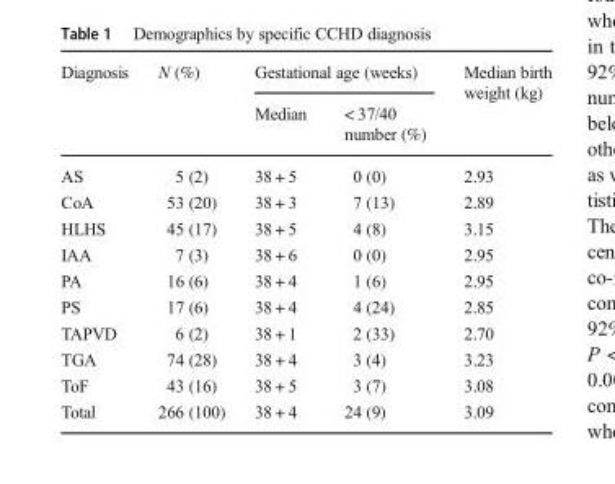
<table><thead><tr><td rowspan="2">Diagnosis</td><td rowspan="2">N (%)</td><td colspan="2">Gestational age (weeks)</td><td rowspan="2">Median birth weight (kg)</td></tr><tr><td>Median</td><td>&lt; 37/40 number (%)</td></tr></thead><tbody><tr><td>AS</td><td>5 (2)</td><td>38 + 5</td><td>0 (0)</td><td>2.93</td></tr><tr><td>CoA</td><td>53 (20)</td><td>38 + 3</td><td>7 (13)</td><td>2.89</td></tr><tr><td>HLHS</td><td>45 (17)</td><td>38 + 5</td><td>4 (8)</td><td>3.15</td></tr><tr><td>IAA</td><td>7 (3)</td><td>38 + 6</td><td>0 (0)</td><td>2.95</td></tr><tr><td>PA</td><td>16 (6)</td><td>38 + 4</td><td>1 (6)</td><td>2.95</td></tr><tr><td>PS</td><td>17 (6)</td><td>38 + 4</td><td>4 (24)</td><td>2.85</td></tr><tr><td>TAPVD</td><td>6 (2)</td><td>38 + 1</td><td>2 (33)</td><td>2.70</td></tr><tr><td>TGA</td><td>74 (28)</td><td>38 + 4</td><td>3 (4)</td><td>3.23</td></tr><tr><td>ToF</td><td>43 (16)</td><td>38 + 5</td><td>3 (7)</td><td>3.08</td></tr><tr><td>Total</td><td>266 (100)</td><td>38 + 4</td><td>24 (9)</td><td>3.09</td></tr></tbody></table>